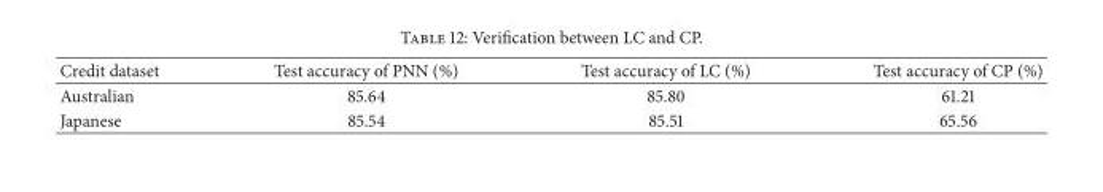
<table><thead><tr><td>Credit dataset</td><td>Test accuracy of PNN (%)</td><td>Test accuracy of LC (%)</td><td>Test accuracy of CP (%)</td></tr></thead><tbody><tr><td>Australian</td><td>85.64</td><td>85.80</td><td>61.21</td></tr><tr><td>Japanese</td><td>85.54</td><td>85.51</td><td>65.56</td></tr></tbody></table>